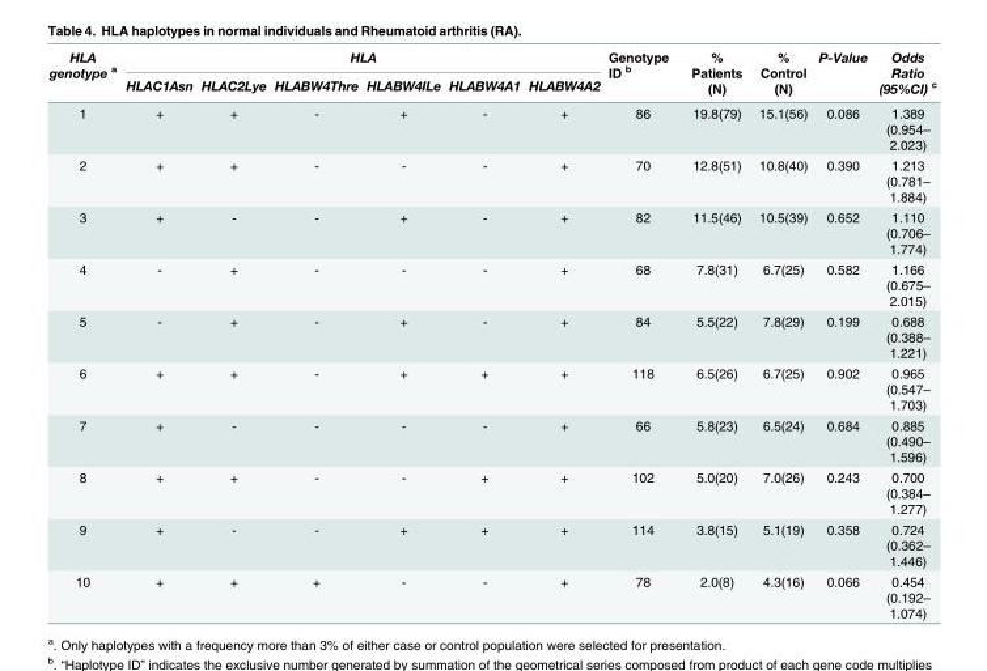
<table><thead><tr><td rowspan="2">HLA genotype <sup>a</sup></td><td colspan="6">HLA</td><td rowspan="2">Genotype ID <sup>b</sup></td><td rowspan="2">% Patients (N)</td><td rowspan="2">% Control (N)</td><td rowspan="2">P-Value</td><td rowspan="2">Odds Ratio (95%CI) <sup>c</sup></td></tr><tr><td>HLAC1Asn</td><td>HLAC2Lye</td><td>HLABW4Thre</td><td>HLABW4ILe</td><td>HLABW4A1</td><td>HLABW4A2</td></tr></thead><tbody><tr><td>1</td><td>+</td><td>+</td><td>-</td><td>+</td><td>-</td><td>+</td><td>86</td><td>19.8(79)</td><td>15.1(56)</td><td>0.086</td><td>1.389 (0.954– 2.023)</td></tr><tr><td>2</td><td>+</td><td>+</td><td>-</td><td>-</td><td>-</td><td>+</td><td>70</td><td>12.8(51)</td><td>10.8(40)</td><td>0.390</td><td>1.213 (0.781– 1.884)</td></tr><tr><td>3</td><td>+</td><td>-</td><td>-</td><td>+</td><td>-</td><td>+</td><td>82</td><td>11.5(46)</td><td>10.5(39)</td><td>0.652</td><td>1.110 (0.706– 1.774)</td></tr><tr><td>4</td><td>-</td><td>+</td><td>-</td><td>-</td><td>-</td><td>+</td><td>68</td><td>7.8(31)</td><td>6.7(25)</td><td>0.582</td><td>1.166 (0.675– 2.015)</td></tr><tr><td>5</td><td>-</td><td>+</td><td>-</td><td>+</td><td>-</td><td>+</td><td>84</td><td>5.5(22)</td><td>7.8(29)</td><td>0.199</td><td>0.688 (0.388– 1.221)</td></tr><tr><td>6</td><td>+</td><td>+</td><td>-</td><td>+</td><td>+</td><td>+</td><td>118</td><td>6.5(26)</td><td>6.7(25)</td><td>0.902</td><td>0.965 (0.547– 1.703)</td></tr><tr><td>7</td><td>+</td><td>-</td><td>-</td><td>-</td><td>-</td><td>+</td><td>66</td><td>5.8(23)</td><td>6.5(24)</td><td>0.684</td><td>0.885 (0.490– 1.596)</td></tr><tr><td>8</td><td>+</td><td>+</td><td>-</td><td>-</td><td>+</td><td>+</td><td>102</td><td>5.0(20)</td><td>7.0(26)</td><td>0.243</td><td>0.700 (0.384– 1.277)</td></tr><tr><td>9</td><td>+</td><td>-</td><td>-</td><td>+</td><td>+</td><td>+</td><td>114</td><td>3.8(15)</td><td>5.1(19)</td><td>0.358</td><td>0.724 (0.362– 1.446)</td></tr><tr><td>10</td><td>+</td><td>+</td><td>+</td><td>-</td><td>-</td><td>+</td><td>78</td><td>2.0(8)</td><td>4.3(16)</td><td>0.066</td><td>0.454 (0.192– 1.074)</td></tr></tbody></table>